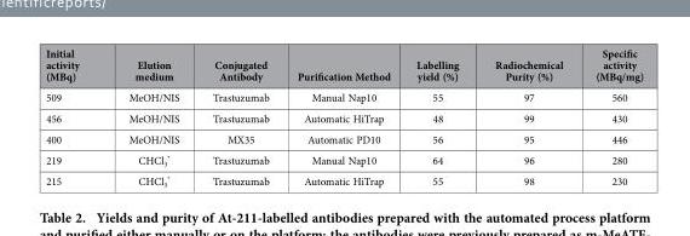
<table><thead><tr><td>Initial activity (MBq)</td><td>Elution medium</td><td>Conjugated Antibody</td><td>Purification Method</td><td>Labelling yield (%)</td><td>Radiochemical Purity (%)</td><td>Specific activity (MBq/mg)</td></tr></thead><tbody><tr><td>509</td><td>MeOH/NIS</td><td>Trastuzumab</td><td>Manual Nap10</td><td>55</td><td>97</td><td>560</td></tr><tr><td>456</td><td>MeOH/NIS</td><td>Trastuzumab</td><td>Automatic HiTrap</td><td>48</td><td>99</td><td>430</td></tr><tr><td>400</td><td>MeOH/NIS</td><td>MX35</td><td>Automatic PD10</td><td>56</td><td>95</td><td>446</td></tr><tr><td>219</td><td>CHCl<sub>3</sub> *</td><td>Trastuzumab</td><td>Manual Nap10</td><td>64</td><td>96</td><td>280</td></tr><tr><td>215</td><td>CHCl<sub>3</sub> *</td><td>Trastuzumab</td><td>Automatic HiTrap</td><td>55</td><td>98</td><td>230</td></tr></tbody></table>